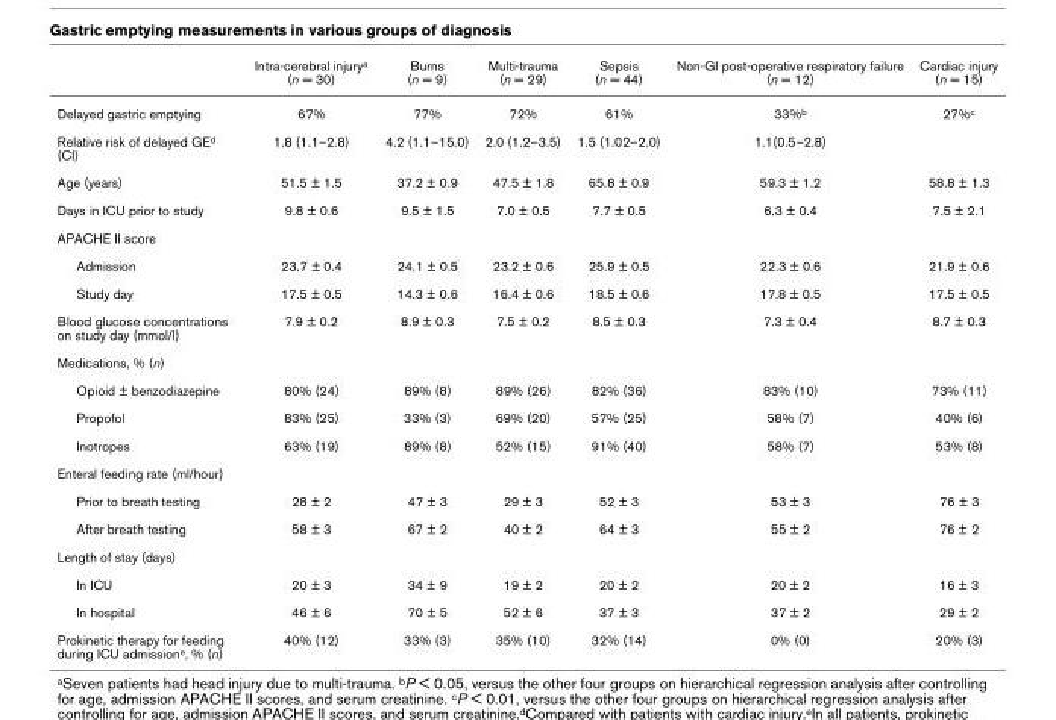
<table><thead><tr><td></td><td>Intra-cerebral injury<sup>a</sup> (n = 30)</td><td>Burns (n = 9)</td><td>Multi-trauma (n = 29)</td><td>Sepsis (n = 44)</td><td>Non-GI post-operative respiratory failure (n = 12)</td><td>Cardiac injury (n = 15)</td></tr></thead><tbody><tr><td>Delayed gastric emptying</td><td>67%</td><td>77%</td><td>72%</td><td>61%</td><td>33%<sup>b</sup></td><td>27%<sup>c</sup></td></tr><tr><td>Relative risk of delayed GE<sup>d</sup> (CI)</td><td>1.8 (1.1–2.8)</td><td>4.2 (1.1–15.0)</td><td>2.0 (1.2–3.5)</td><td>1.5 (1.02–2.0)</td><td>1.1(0.5–2.8)</td><td></td></tr><tr><td>Age (years)</td><td>51.5 ± 1.5</td><td>37.2 ± 0.9</td><td>47.5 ± 1.8</td><td>65.8 ± 0.9</td><td>59.3 ± 1.2</td><td>58.8 ± 1.3</td></tr><tr><td>Days in ICU prior to study</td><td>9.8 ± 0.6</td><td>9.5 ± 1.5</td><td>7.0 ± 0.5</td><td>7.7 ± 0.5</td><td>6.3 ± 0.4</td><td>7.5 ± 2.1</td></tr><tr><td colspan="7">APACHE II score</td></tr><tr><td>Admission</td><td>23.7 ± 0.4</td><td>24.1 ± 0.5</td><td>23.2 ± 0.6</td><td>25.9 ± 0.5</td><td>22.3 ± 0.6</td><td>21.9 ± 0.6</td></tr><tr><td>Study day</td><td>17.5 ± 0.5</td><td>14.3 ± 0.6</td><td>16.4 ± 0.6</td><td>18.5 ± 0.6</td><td>17.8 ± 0.5</td><td>17.5 ± 0.5</td></tr><tr><td>Blood glucose concentrations on study day (mmol/l)</td><td>7.9 ± 0.2</td><td>8.9 ± 0.3</td><td>7.5 ± 0.2</td><td>8.5 ± 0.3</td><td>7.3 ± 0.4</td><td>8.7 ± 0.3</td></tr><tr><td colspan="7">Medications, % (n)</td></tr><tr><td>Opioid ± benzodiazepine</td><td>80% (24)</td><td>89% (8)</td><td>89% (26)</td><td>82% (36)</td><td>83% (10)</td><td>73% (11)</td></tr><tr><td>Propofol</td><td>83% (25)</td><td>33% (3)</td><td>69% (20)</td><td>57% (25)</td><td>58% (7)</td><td>40% (6)</td></tr><tr><td>Inotropes</td><td>63% (19)</td><td>89% (8)</td><td>52% (15)</td><td>91% (40)</td><td>58% (7)</td><td>53% (8)</td></tr><tr><td colspan="7">Enteral feeding rate (ml/hour)</td></tr><tr><td>Prior to breath testing</td><td>28 ± 2</td><td>47 ± 3</td><td>29 ± 3</td><td>52 ± 3</td><td>53 ± 3</td><td>76 ± 3</td></tr><tr><td>After breath testing</td><td>58 ± 3</td><td>67 ± 2</td><td>40 ± 2</td><td>64 ± 3</td><td>55 ± 2</td><td>76 ± 2</td></tr><tr><td colspan="7">Length of stay (days)</td></tr><tr><td>In ICU</td><td>20 ± 3</td><td>34 ± 9</td><td>19 ± 2</td><td>20 ± 2</td><td>20 ± 2</td><td>16 ± 3</td></tr><tr><td>In hospital</td><td>46 ± 6</td><td>70 ± 5</td><td>52 ± 6</td><td>37 ± 3</td><td>37 ± 2</td><td>29 ± 2</td></tr><tr><td>Prokinetic therapy for feeding during ICU admission<sup>e</sup>, % (n)</td><td>40% (12)</td><td>33% (3)</td><td>35% (10)</td><td>32% (14)</td><td>0% (0)</td><td>20% (3)</td></tr></tbody></table>